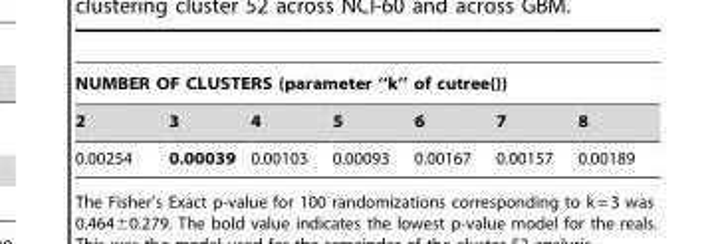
<table><thead><tr><td colspan="7">NUMBER OF CLUSTERS (parameter ‘‘k’’ of cutree())</td></tr><tr><td>2</td><td>3</td><td>4</td><td>5</td><td>6</td><td>7</td><td>8</td></tr></thead><tbody><tr><td>0.00254</td><td>0.00039</td><td>0.00103</td><td>0.00093</td><td>0.00167</td><td>0.00157</td><td>0.00189</td></tr></tbody></table>